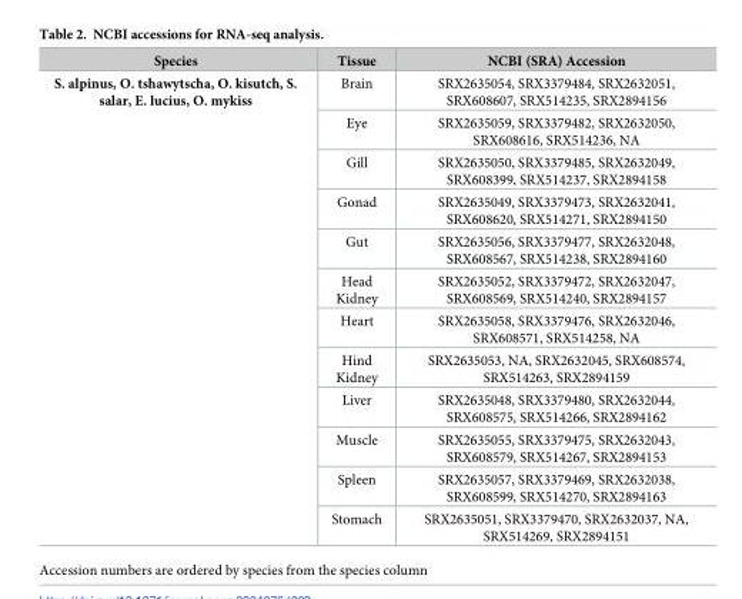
<table><thead><tr><td>Species</td><td>Tissue</td><td>NCBI (SRA) Accession</td></tr></thead><tbody><tr><td rowspan="12">S. alpinus, O. tshawytscha, O. kisutch, S. salar, E. lucius, O. mykiss</td><td>Brain</td><td>SRX2635054, SRX3379484, SRX2632051, SRX608607, SRX514235, SRX2894156</td></tr><tr><td>Eye</td><td>SRX2635059, SRX3379482, SRX2632050, SRX608616, SRX514236, NA</td></tr><tr><td>Gill</td><td>SRX2635050, SRX3379485, SRX2632049, SRX608399, SRX514237, SRX2894158</td></tr><tr><td>Gonad</td><td>SRX2635049, SRX3379473, SRX2632041, SRX608620, SRX514271, SRX2894150</td></tr><tr><td>Gut</td><td>SRX2635056, SRX3379477, SRX2632048, SRX608567, SRX514238, SRX2894160</td></tr><tr><td>Head Kidney</td><td>SRX2635052, SRX3379472, SRX2632047, SRX608569, SRX514240, SRX2894157</td></tr><tr><td>Heart</td><td>SRX2635058, SRX3379476, SRX2632046, SRX608571, SRX514258, NA</td></tr><tr><td>Hind Kidney</td><td>SRX2635053, NA, SRX2632045, SRX608574, SRX514263, SRX2894159</td></tr><tr><td>Liver</td><td>SRX2635048, SRX3379480, SRX2632044, SRX608575, SRX514266, SRX2894162</td></tr><tr><td>Muscle</td><td>SRX2635055, SRX3379475, SRX2632043, SRX608579, SRX514267, SRX2894153</td></tr><tr><td>Spleen</td><td>SRX2635057, SRX3379469, SRX2632038, SRX608599, SRX514270, SRX2894163</td></tr><tr><td>Stomach</td><td>SRX2635051, SRX3379470, SRX2632037, NA, SRX514269, SRX2894151</td></tr></tbody></table>